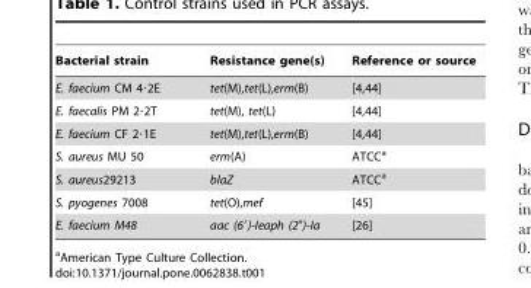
<table><thead><tr><td>Bacterial strain</td><td>Resistance gene(s)</td><td>Reference or source</td></tr></thead><tbody><tr><td>E. faecium CM 4·2E</td><td>tet(M),tet(L),erm(B)</td><td>[4,44]</td></tr><tr><td>E. faecalis PM 2·2T</td><td>tet(M), tet(L)</td><td>[4,44]</td></tr><tr><td>E. faecium CF 2·1E</td><td>tet(M),tet(L),erm(B)</td><td>[4,44]</td></tr><tr><td>S. aureus MU 50</td><td>erm(A)</td><td>ATCC<sup>a</sup></td></tr><tr><td>S. aureus29213</td><td>blaZ</td><td>ATCC<sup>a</sup></td></tr><tr><td>S. pyogenes 7008</td><td>tet(O),mef</td><td>[45]</td></tr><tr><td>E. faecium M48</td><td>aac (6′)-Ieaph (2″)-Ia</td><td>[26]</td></tr></tbody></table>